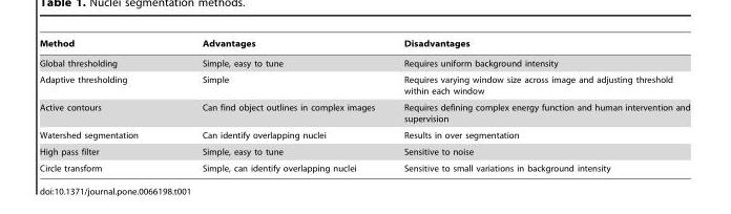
<table><thead><tr><td>Method</td><td>Advantages</td><td>Disadvantages</td></tr></thead><tbody><tr><td>Global thresholding</td><td>Simple, easy to tune</td><td>Requires uniform background intensity</td></tr><tr><td>Adaptive thresholding</td><td>Simple</td><td>Requires varying window size across image and adjusting threshold within each window</td></tr><tr><td>Active contours</td><td>Can find object outlines in complex images</td><td>Requires defining complex energy function and human intervention and supervision</td></tr><tr><td>Watershed segmentation</td><td>Can identify overlapping nuclei</td><td>Results in over segmentation</td></tr><tr><td>High pass filter</td><td>Simple, easy to tune</td><td>Sensitive to noise</td></tr><tr><td>Circle transform</td><td>Simple, can identify overlapping nuclei</td><td>Sensitive to small variations in background intensity</td></tr></tbody></table>